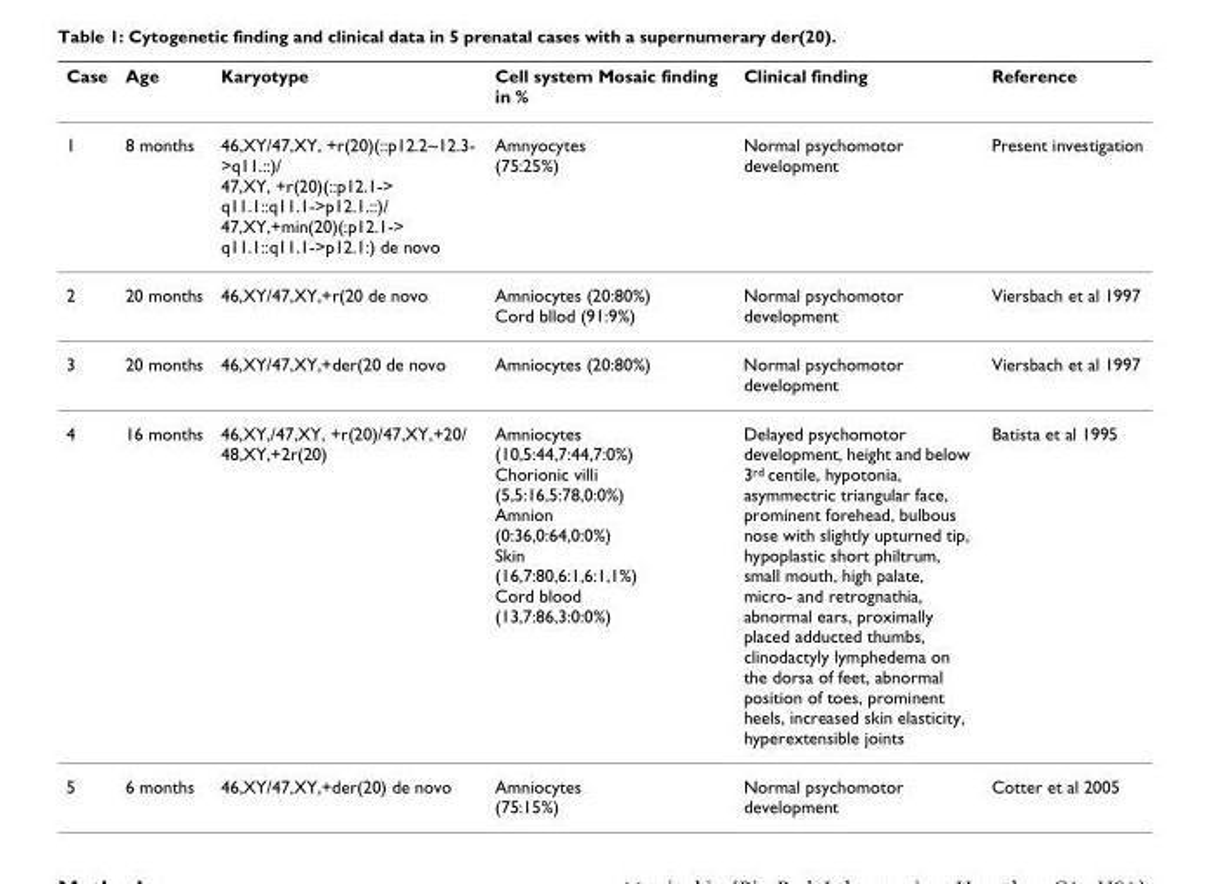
<table><thead><tr><td>Case</td><td>Age</td><td>Karyotype</td><td>Cell system Mosaic finding in %</td><td>Clinical finding</td><td>Reference</td></tr></thead><tbody><tr><td>1</td><td>8 months</td><td>46,XY/47,XY, +r(20)(::p12.2~12.3- &gt;q11.::)/ 47,XY, +r(20)(::p12.1-&gt; q11.1::q11.1-&gt;p12.1.::)/ 47,XY,+min(20)(:p12.1-&gt; q11.1::q11.1-&gt;p12.1:) de novo</td><td>Amnyocytes (75:25%)</td><td>Normal psychomotor development</td><td>Present investigation</td></tr><tr><td>2</td><td>20 months</td><td>46,XY/47,XY,+r(20 de novo</td><td>Amniocytes (20:80%) Cord bllod (91:9%)</td><td>Normal psychomotor development</td><td>Viersbach et al 1997</td></tr><tr><td>3</td><td>20 months</td><td>46,XY/47,XY,+der(20 de novo</td><td>Amniocytes (20:80%)</td><td>Normal psychomotor development</td><td>Viersbach et al 1997</td></tr><tr><td>4</td><td>16 months</td><td>46,XY,/47,XY, +r(20)/47,XY,+20/ 48,XY,+2r(20)</td><td>Amniocytes (10,5:44,7:44,7:0%) Chorionic villi (5,5:16,5:78,0:0%) Amnion (0:36,0:64,0:0%) Skin (16,7:80,6:1,6:1,1%) Cord blood (13,7:86,3:0:0%)</td><td>Delayed psychomotor development, height and below 3<sup>rd</sup> centile, hypotonia, asymmectric triangular face, prominent forehead, bulbous nose with slightly upturned tip, hypoplastic short philtrum, small mouth, high palate, micro- and retrognathia, abnormal ears, proximally placed adducted thumbs, clinodactyly lymphedema on the dorsa of feet, abnormal position of toes, prominent heels, increased skin elasticity, hyperextensible joints</td><td>Batista et al 1995</td></tr><tr><td>5</td><td>6 months</td><td>46,XY/47,XY,+der(20) de novo</td><td>Amniocytes (75:15%)</td><td>Normal psychomotor development</td><td>Cotter et al 2005</td></tr></tbody></table>